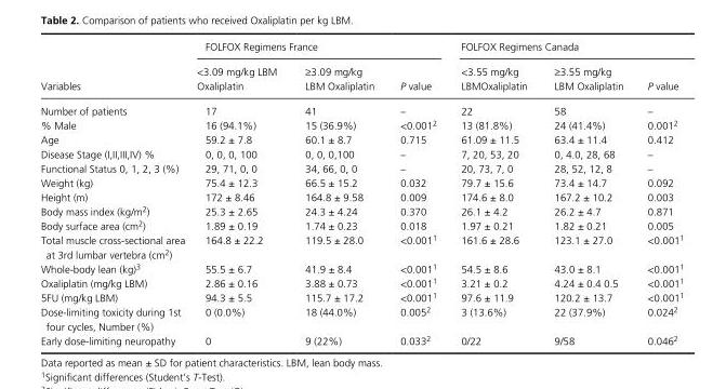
<table><thead><tr><td rowspan="2">Variables</td><td colspan="3">FOLFOX Regimens France</td><td colspan="3">FOLFOX Regimens Canada</td></tr><tr><td>&lt;3.09 mg/kg LBM Oxaliplatin</td><td>≥3.09 mg/kg LBM Oxaliplatin</td><td>P value</td><td>&lt;3.55 mg/kg LBMOxaliplatin</td><td>≥3.55 mg/kg LBM Oxaliplatin</td><td>P value</td></tr></thead><tbody><tr><td>Number of patients</td><td>17</td><td>41</td><td>–</td><td>22</td><td>58</td><td>–</td></tr><tr><td>% Male</td><td>16 (94.1%)</td><td>15 (36.9%)</td><td>&lt;0.0012</td><td>13 (81.8%)</td><td>24 (41.4%)</td><td>0.0012</td></tr><tr><td>Age</td><td>59.2 ± 7.8</td><td>60.1 ± 8.7</td><td>0.715</td><td>61.09 ± 11.5</td><td>63.4 ± 11.4</td><td>0.412</td></tr><tr><td>Disease Stage (I,II,III,IV) %</td><td>0, 0, 0, 100</td><td>0, 0, 0,100</td><td>–</td><td>7, 20, 53, 20</td><td>0, 4.0, 28, 68</td><td>–</td></tr><tr><td>Functional Status 0, 1, 2, 3 (%)</td><td>29, 71, 0, 0</td><td>34, 66, 0, 0</td><td>–</td><td>20, 73, 7, 0</td><td>28, 52, 12, 8</td><td>–</td></tr><tr><td>Weight (kg)</td><td>75.4 ± 12.3</td><td>66.5 ± 15.2</td><td>0.032</td><td>79.7 ± 15.6</td><td>73.4 ± 14.7</td><td>0.092</td></tr><tr><td>Height (m)</td><td>172 ± 8.46</td><td>164.8 ± 9.58</td><td>0.009</td><td>174.6 ± 8.0</td><td>167.2 ± 10.2</td><td>0.003</td></tr><tr><td>Body mass index (kg/m<sup>2</sup>)</td><td>25.3 ± 2.65</td><td>24.3 ± 4.24</td><td>0.370</td><td>26.1 ± 4.2</td><td>26.2 ± 4.7</td><td>0.871</td></tr><tr><td>Body surface area (cm<sup>2</sup>)</td><td>1.89 ± 0.19</td><td>1.74 ± 0.23</td><td>0.018</td><td>1.97 ± 0.21</td><td>1.82 ± 0.21</td><td>0.005</td></tr><tr><td>Total muscle cross- sectional area at 3rd lumbar vertebra (cm<sup>2</sup>)</td><td>164.8 ± 22.2</td><td>119.5 ± 28.0</td><td>&lt;0.0011</td><td>161.6 ± 28.6</td><td>123.1 ± 27.0</td><td>&lt;0.0011</td></tr><tr><td>Whole- body lean (kg)3</td><td>55.5 ± 6.7</td><td>41.9 ± 8.4</td><td>&lt;0.0011</td><td>54.5 ± 8.6</td><td>43.0 ± 8.1</td><td>&lt;0.0011</td></tr><tr><td>Oxaliplatin (mg/kg LBM)</td><td>2.86 ± 0.16</td><td>3.88 ± 0.73</td><td>&lt;0.0011</td><td>3.21 ± 0.2</td><td>4.24 ± 0.4 0.5</td><td>&lt;0.0011</td></tr><tr><td>5FU (mg/kg LBM)</td><td>94.3 ± 5.5</td><td>115.7 ± 17.2</td><td>&lt;0.0011</td><td>97.6 ± 11.9</td><td>120.2 ± 13.7</td><td>&lt;0.0011</td></tr><tr><td>Dose- limiting toxicity during 1st four cycles, Number (%)</td><td>0 (0.0%)</td><td>18 (44.0%)</td><td>0.0052</td><td>3 (13.6%)</td><td>22 (37.9%)</td><td>0.0242</td></tr><tr><td>Early dose- limiting neuropathy</td><td>0</td><td>9 (22%)</td><td>0.0332</td><td>0/22</td><td>9/58</td><td>0.0462</td></tr></tbody></table>